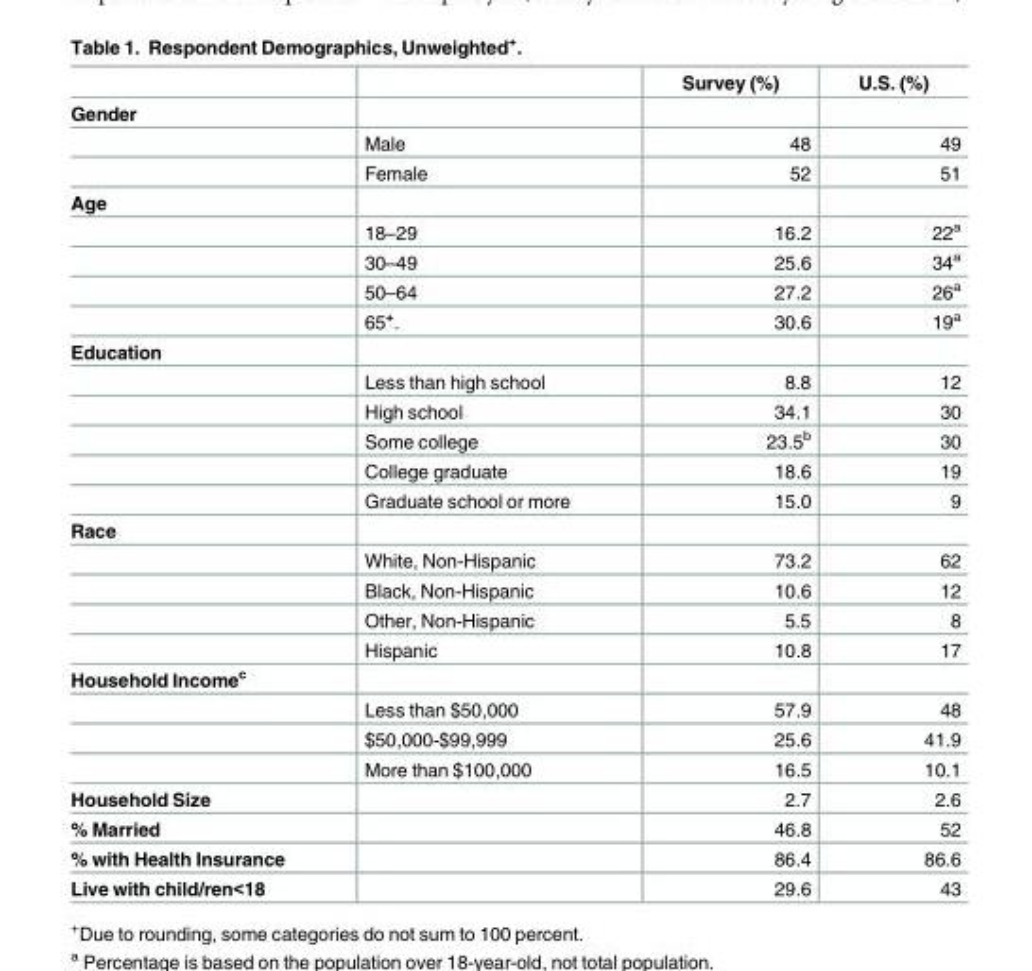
<table><thead><tr><td></td><td></td><td>Survey (%)</td><td>U.S. (%)</td></tr></thead><tbody><tr><td colspan="4">Gender</td></tr><tr><td></td><td>Male</td><td>48</td><td>49</td></tr><tr><td></td><td>Female</td><td>52</td><td>51</td></tr><tr><td colspan="4">Age</td></tr><tr><td></td><td>18–29</td><td>16.2</td><td>22<sup>a</sup></td></tr><tr><td></td><td>30–49</td><td>25.6</td><td>34<sup>a</sup></td></tr><tr><td></td><td>50–64</td><td>27.2</td><td>26<sup>a</sup></td></tr><tr><td></td><td>65<sup>+</sup>.</td><td>30.6</td><td>19<sup>a</sup></td></tr><tr><td colspan="4">Education</td></tr><tr><td></td><td>Less than high school</td><td>8.8</td><td>12</td></tr><tr><td></td><td>High school</td><td>34.1</td><td>30</td></tr><tr><td></td><td>Some college</td><td>23.5<sup>b</sup></td><td>30</td></tr><tr><td></td><td>College graduate</td><td>18.6</td><td>19</td></tr><tr><td></td><td>Graduate school or more</td><td>15.0</td><td>9</td></tr><tr><td colspan="4">Race</td></tr><tr><td></td><td>White, Non-Hispanic</td><td>73.2</td><td>62</td></tr><tr><td></td><td>Black, Non-Hispanic</td><td>10.6</td><td>12</td></tr><tr><td></td><td>Other, Non-Hispanic</td><td>5.5</td><td>8</td></tr><tr><td></td><td>Hispanic</td><td>10.8</td><td>17</td></tr><tr><td colspan="4">Household Income<sup>c</sup></td></tr><tr><td></td><td>Less than $50,000</td><td>57.9</td><td>48</td></tr><tr><td></td><td>$50,000-$99,999</td><td>25.6</td><td>41.9</td></tr><tr><td></td><td>More than $100,000</td><td>16.5</td><td>10.1</td></tr><tr><td>Household Size</td><td></td><td>2.7</td><td>2.6</td></tr><tr><td>% Married</td><td></td><td>46.8</td><td>52</td></tr><tr><td>% with Health Insurance</td><td></td><td>86.4</td><td>86.6</td></tr><tr><td>Live with child/ren&lt;18</td><td></td><td>29.6</td><td>43</td></tr></tbody></table>